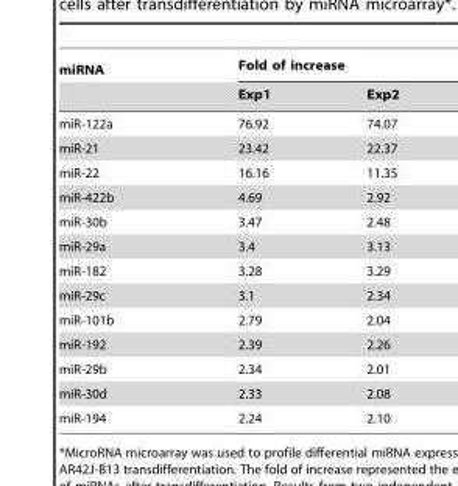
<table><thead><tr><td rowspan="2">miRNA</td><td colspan="2">Fold of increase</td></tr><tr><td>Exp1</td><td>Exp2</td></tr></thead><tbody><tr><td>miR-122a</td><td>76.92</td><td>74.07</td></tr><tr><td>miR-21</td><td>23.42</td><td>22.37</td></tr><tr><td>miR-22</td><td>16.16</td><td>11.35</td></tr><tr><td>miR-422b</td><td>4.69</td><td>2.92</td></tr><tr><td>miR-30b</td><td>3.47</td><td>2.48</td></tr><tr><td>miR-29a</td><td>3.4</td><td>3.13</td></tr><tr><td>miR-182</td><td>3.28</td><td>3.29</td></tr><tr><td>miR-29c</td><td>3.1</td><td>2.34</td></tr><tr><td>miR-101b</td><td>2.79</td><td>2.04</td></tr><tr><td>miR-192</td><td>2.39</td><td>2.26</td></tr><tr><td>miR-29b</td><td>2.34</td><td>2.01</td></tr><tr><td>miR-30d</td><td>2.33</td><td>2.08</td></tr><tr><td>miR-194</td><td>2.24</td><td>2.10</td></tr></tbody></table>